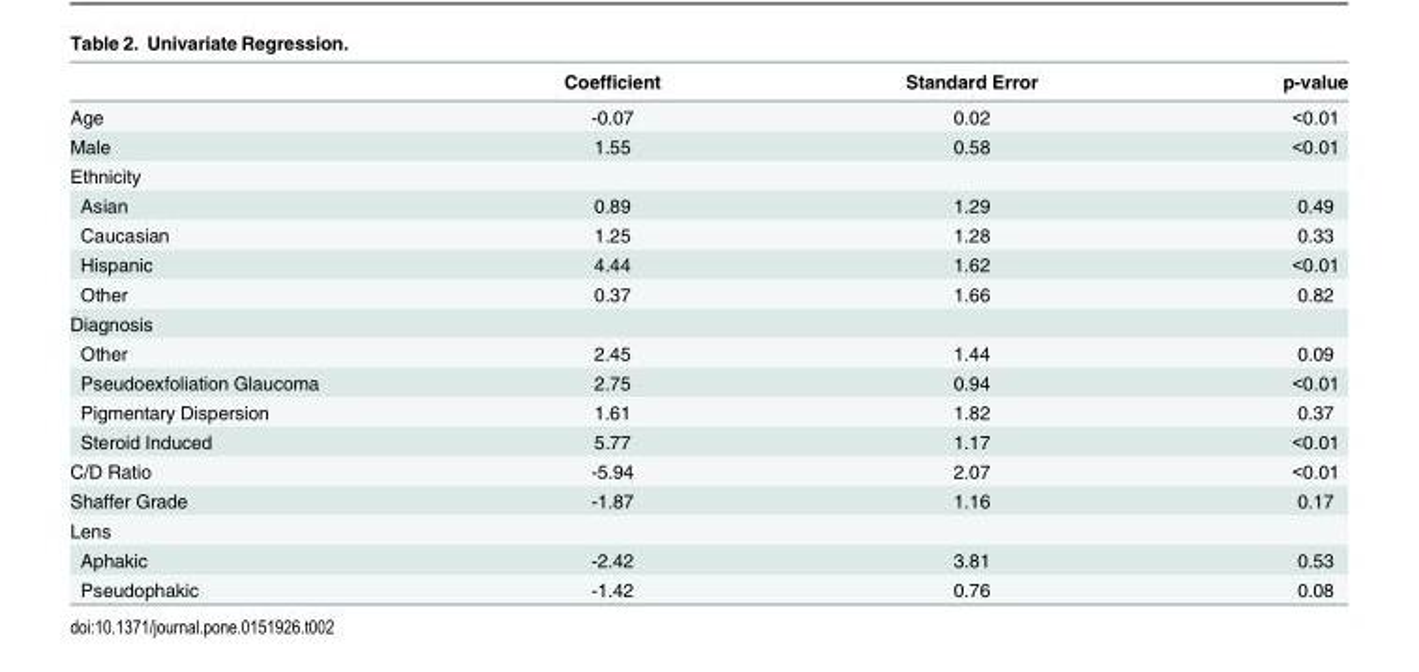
<table><thead><tr><td></td><td>Coefficient</td><td>Standard Error</td><td>p-value</td></tr></thead><tbody><tr><td>Age</td><td>-0.07</td><td>0.02</td><td>&lt;0.01</td></tr><tr><td>Male</td><td>1.55</td><td>0.58</td><td>&lt;0.01</td></tr><tr><td colspan="4">Ethnicity</td></tr><tr><td>Asian</td><td>0.89</td><td>1.29</td><td>0.49</td></tr><tr><td>Caucasian</td><td>1.25</td><td>1.28</td><td>0.33</td></tr><tr><td>Hispanic</td><td>4.44</td><td>1.62</td><td>&lt;0.01</td></tr><tr><td>Other</td><td>0.37</td><td>1.66</td><td>0.82</td></tr><tr><td colspan="4">Diagnosis</td></tr><tr><td>Other</td><td>2.45</td><td>1.44</td><td>0.09</td></tr><tr><td>Pseudoexfoliation Glaucoma</td><td>2.75</td><td>0.94</td><td>&lt;0.01</td></tr><tr><td>Pigmentary Dispersion</td><td>1.61</td><td>1.82</td><td>0.37</td></tr><tr><td>Steroid Induced</td><td>5.77</td><td>1.17</td><td>&lt;0.01</td></tr><tr><td>C/D Ratio</td><td>-5.94</td><td>2.07</td><td>&lt;0.01</td></tr><tr><td>Shaffer Grade</td><td>-1.87</td><td>1.16</td><td>0.17</td></tr><tr><td colspan="4">Lens</td></tr><tr><td>Aphakic</td><td>-2.42</td><td>3.81</td><td>0.53</td></tr><tr><td>Pseudophakic</td><td>-1.42</td><td>0.76</td><td>0.08</td></tr></tbody></table>